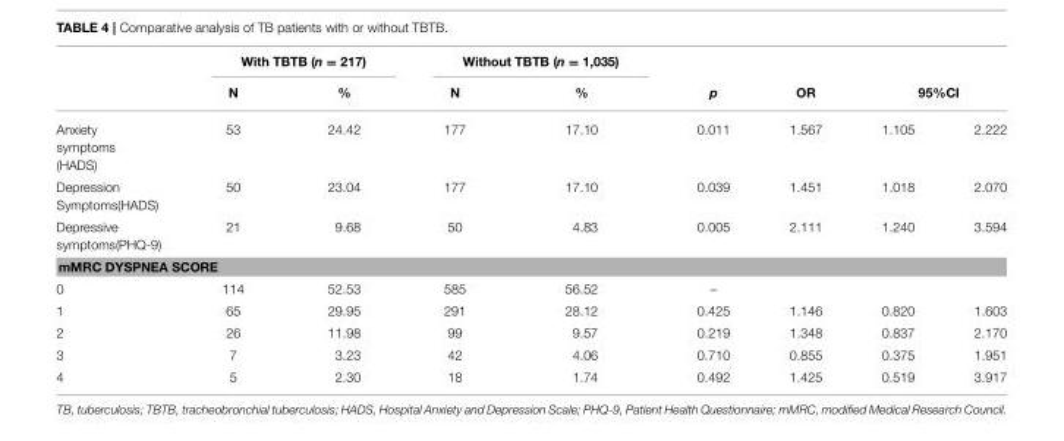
<table><thead><tr><td rowspan="2"></td><td colspan="2">With TBTB (n = 217)</td><td colspan="2">Without TBTB (n = 1,035)</td><td rowspan="2">p</td><td rowspan="2">OR</td><td></td><td></td></tr><tr><td>N</td><td>%</td><td>N</td><td>%</td><td colspan="2">95%CI</td></tr></thead><tbody><tr><td>Anxiety symptoms (HADS)</td><td>53</td><td>24.42</td><td>177</td><td>17.10</td><td>0.011</td><td>1.567</td><td>1.105</td><td>2.222</td></tr><tr><td>Depression Symptoms(HADS)</td><td>50</td><td>23.04</td><td>177</td><td>17.10</td><td>0.039</td><td>1.451</td><td>1.018</td><td>2.070</td></tr><tr><td>Depressive symptoms(PHQ-9)</td><td>21</td><td>9.68</td><td>50</td><td>4.83</td><td>0.005</td><td>2.111</td><td>1.240</td><td>3.594</td></tr><tr><td colspan="9">mMRC DYSPNEA SCORE</td></tr><tr><td>0</td><td>114</td><td>52.53</td><td>585</td><td>56.52</td><td>–</td><td></td><td></td><td></td></tr><tr><td>1</td><td>65</td><td>29.95</td><td>291</td><td>28.12</td><td>0.425</td><td>1.146</td><td>0.820</td><td>1.603</td></tr><tr><td>2</td><td>26</td><td>11.98</td><td>99</td><td>9.57</td><td>0.219</td><td>1.348</td><td>0.837</td><td>2.170</td></tr><tr><td>3</td><td>7</td><td>3.23</td><td>42</td><td>4.06</td><td>0.710</td><td>0.855</td><td>0.375</td><td>1.951</td></tr><tr><td>4</td><td>5</td><td>2.30</td><td>18</td><td>1.74</td><td>0.492</td><td>1.425</td><td>0.519</td><td>3.917</td></tr></tbody></table>